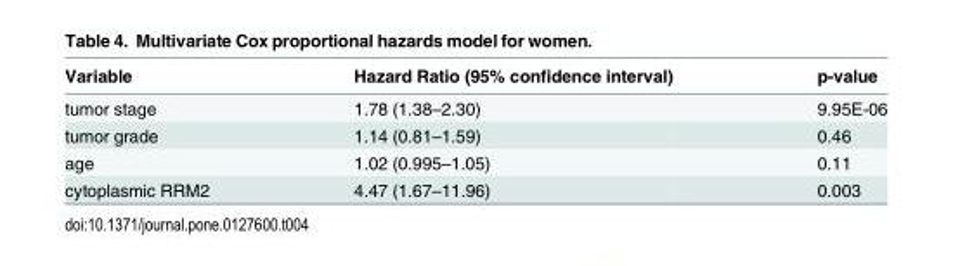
<table><thead><tr><td>Variable</td><td>Hazard Ratio (95% confidence interval)</td><td>p-value</td></tr></thead><tbody><tr><td>tumor stage</td><td>1.78 (1.38–2.30)</td><td>9.95E-06</td></tr><tr><td>tumor grade</td><td>1.14 (0.81–1.59)</td><td>0.46</td></tr><tr><td>age</td><td>1.02 (0.995–1.05)</td><td>0.11</td></tr><tr><td>cytoplasmic RRM2</td><td>4.47 (1.67–11.96)</td><td>0.003</td></tr></tbody></table>